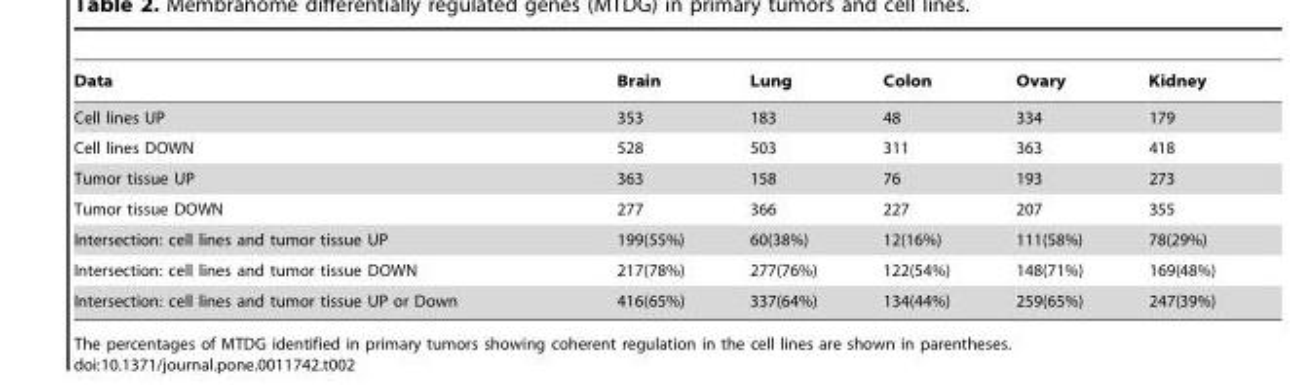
<table><thead><tr><td>Data</td><td>Brain</td><td>Lung</td><td>Colon</td><td>Ovary</td><td>Kidney</td></tr></thead><tbody><tr><td>Cell lines UP</td><td>353</td><td>183</td><td>48</td><td>334</td><td>179</td></tr><tr><td>Cell lines DOWN</td><td>528</td><td>503</td><td>311</td><td>363</td><td>418</td></tr><tr><td>Tumor tissue UP</td><td>363</td><td>158</td><td>76</td><td>193</td><td>273</td></tr><tr><td>Tumor tissue DOWN</td><td>277</td><td>366</td><td>227</td><td>207</td><td>355</td></tr><tr><td>Intersection: cell lines and tumor tissue UP</td><td>199(55%)</td><td>60(38%)</td><td>12(16%)</td><td>111(58%)</td><td>78(29%)</td></tr><tr><td>Intersection: cell lines and tumor tissue DOWN</td><td>217(78%)</td><td>277(76%)</td><td>122(54%)</td><td>148(71%)</td><td>169(48%)</td></tr><tr><td>Intersection: cell lines and tumor tissue UP or Down</td><td>416(65%)</td><td>337(64%)</td><td>134(44%)</td><td>259(65%)</td><td>247(39%)</td></tr></tbody></table>